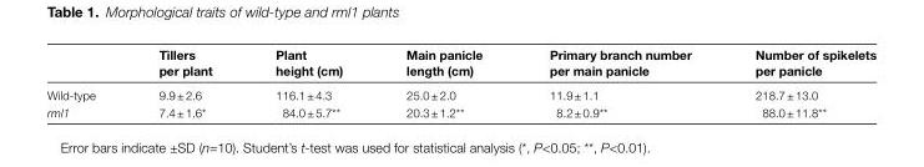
<table><thead><tr><td></td><td>Tillers per plant</td><td>Plant height (cm)</td><td>Main panicle length (cm)</td><td>Primary branch number per main panicle</td><td>Number of spikelets per panicle</td></tr></thead><tbody><tr><td>Wild-type</td><td>9.9 ± 2.6</td><td>116.1 ± 4.3</td><td>25.0 ± 2.0</td><td>11.9 ± 1.1</td><td>218.7 ± 13.0</td></tr><tr><td>rml1</td><td>7.4 ± 1.6*</td><td>84.0 ± 5.7**</td><td>20.3 ± 1.2**</td><td>8.2 ± 0.9**</td><td>88.0 ± 11.8**</td></tr></tbody></table>